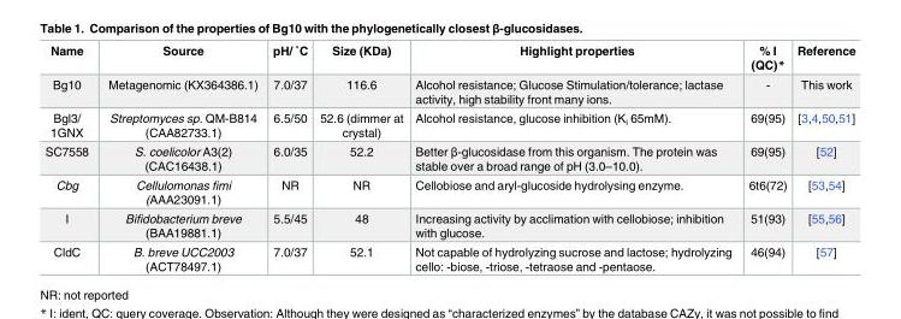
<table><thead><tr><td>Name</td><td>Source</td><td>pH/ ˚C</td><td>Size (KDa)</td><td>Highlight properties</td><td>% I (QC)*</td><td>Reference</td></tr></thead><tbody><tr><td>Bg10</td><td>Metagenomic (KX364386.1)</td><td>7.0/37</td><td>116.6</td><td>Alcohol resistance; Glucose Stimulation/tolerance; lactase activity, high stability front many ions.</td><td>-</td><td>This work</td></tr><tr><td>Bgl3/ 1GNX</td><td>Streptomyces sp. QM-B814 (CAA82733.1)</td><td>6.5/50</td><td>52.6 (dimmer at crystal)</td><td>Alcohol resistance, glucose inhibition (K<sub>i</sub> 65mM).</td><td>69(95)</td><td>[3,4,50,51]</td></tr><tr><td>SC7558</td><td>S. coelicolor A3(2) (CAC16438.1)</td><td>6.0/35</td><td>52.2</td><td>Better β-glucosidase from this organism. The protein was stable over a broad range of pH (3.0–10.0).</td><td>69(95)</td><td>[52]</td></tr><tr><td>Cbg</td><td>Cellulomonas fimi (AAA23091.1)</td><td>NR</td><td>NR</td><td>Cellobiose and aryl-glucoside hydrolysing enzyme.</td><td>6t6(72)</td><td>[53,54]</td></tr><tr><td>I</td><td>Bifidobacterium breve (BAA19881.1)</td><td>5.5/45</td><td>48</td><td>Increasing activity by acclimation with cellobiose; inhibition with glucose.</td><td>51(93)</td><td>[55,56]</td></tr><tr><td>CldC</td><td>B. breve UCC2003 (ACT78497.1)</td><td>7.0/37</td><td>52.1</td><td>Not capable of hydrolyzing sucrose and lactose; hydrolyzing cello: -biose, -triose, -tetraose and -pentaose.</td><td>46(94)</td><td>[57]</td></tr></tbody></table>